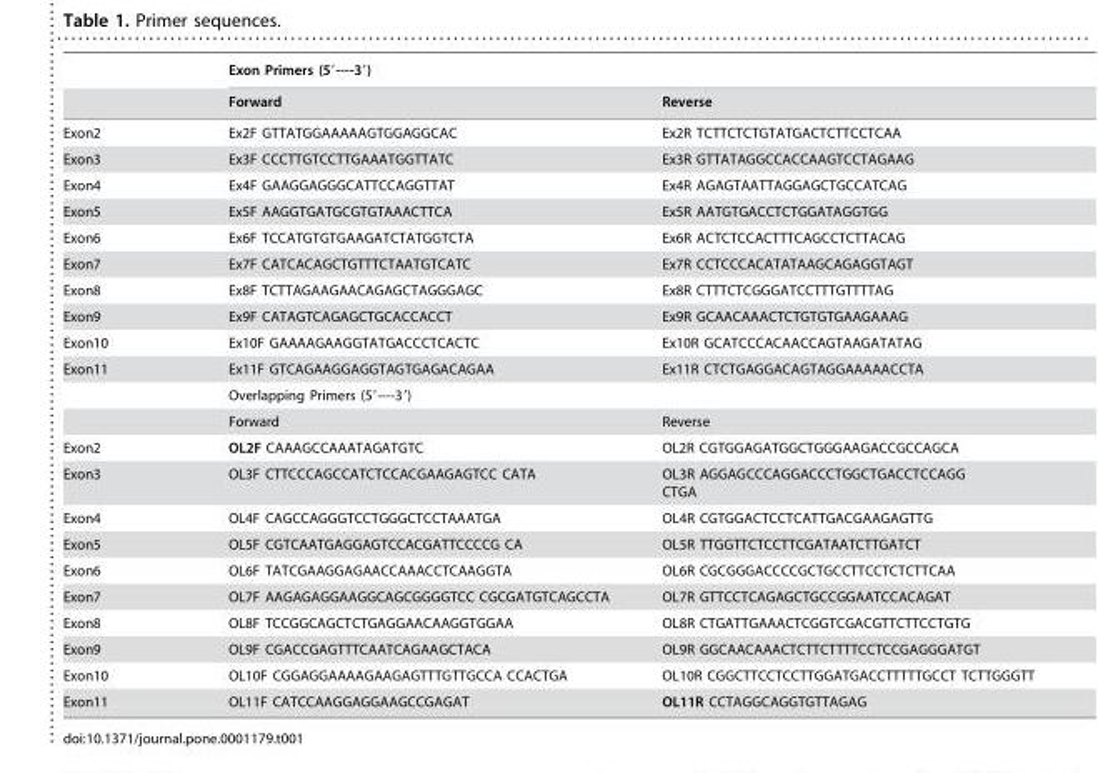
<table><thead><tr><td rowspan="2"></td><td colspan="2">Exon Primers (5′----3′)</td></tr><tr><td>Forward</td><td>Reverse</td></tr></thead><tbody><tr><td>Exon2</td><td>Ex2F GTTATGGAAAAAGTGGAGGCAC</td><td>Ex2R TCTTCTCTGTATGACTCTTCCTCAA</td></tr><tr><td>Exon3</td><td>Ex3F CCCTTGTCCTTGAAATGGTTATC</td><td>Ex3R GTTATAGGCCACCAAGTCCTAGAAG</td></tr><tr><td>Exon4</td><td>Ex4F GAAGGAGGGCATTCCAGGTTAT</td><td>Ex4R AGAGTAATTAGGAGCTGCCATCAG</td></tr><tr><td>Exon5</td><td>Ex5F AAGGTGATGCGTGTAAACTTCA</td><td>Ex5R AATGTGACCTCTGGATAGGTGG</td></tr><tr><td>Exon6</td><td>Ex6F TCCATGTGTGAAGATCTATGGTCTA</td><td>Ex6R ACTCTCCACTTTCAGCCTCTTACAG</td></tr><tr><td>Exon7</td><td>Ex7F CATCACAGCTGTTTCTAATGTCATC</td><td>Ex7R CCTCCCACATATAAGCAGAGGTAGT</td></tr><tr><td>Exon8</td><td>Ex8F TCTTAGAAGAACAGAGCTAGGGAGC</td><td>Ex8R CTTTCTCGGGATCCTTTGTTTTAG</td></tr><tr><td>Exon9</td><td>Ex9F CATAGTCAGAGCTGCACCACCT</td><td>Ex9R GCAACAAACTCTGTGTGAAGAAAG</td></tr><tr><td>Exon10</td><td>Ex10F GAAAAGAAGGTATGACCCTCACTC</td><td>Ex10R GCATCCCACAACCAGTAAGATATAG</td></tr><tr><td rowspan="3">Exon11</td><td>Ex11F GTCAGAAGGAGGTAGTGAGACAGAA</td><td>Ex11R CTCTGAGGACAGTAGGAAAAACCTA</td></tr><tr><td colspan="2">Overlapping Primers (5′----3′)</td></tr><tr><td>Forward</td><td>Reverse</td></tr><tr><td>Exon2</td><td>OL2F CAAAGCCAAATAGATGTC</td><td>OL2R CGTGGAGATGGCTGGGAAGACCGCCAGCA</td></tr><tr><td>Exon3</td><td>OL3F CTTCCCAGCCATCTCCACGAAGAGTCC CATA</td><td>OL3R AGGAGCCCAGGACCCTGGCTGACCTCCAGG CTGA</td></tr><tr><td>Exon4</td><td>OL4F CAGCCAGGGTCCTGGGCTCCTAAATGA</td><td>OL4R CGTGGACTCCTCATTGACGAAGAGTTG</td></tr><tr><td>Exon5</td><td>OL5F CGTCAATGAGGAGTCCACGATTCCCCG CA</td><td>OL5R TTGGTTCTCCTTCGATAATCTTGATCT</td></tr><tr><td>Exon6</td><td>OL6F TATCGAAGGAGAACCAAACCTCAAGGTA</td><td>OL6R CGCGGGACCCCGCTGCCTTCCTCTCTTCAA</td></tr><tr><td>Exon7</td><td>OL7F AAGAGAGGAAGGCAGCGGGGTCC CGCGATGTCAGCCTA</td><td>OL7R GTTCCTCAGAGCTGCCGGAATCCACAGAT</td></tr><tr><td>Exon8</td><td>OL8F TCCGGCAGCTCTGAGGAACAAGGTGGAA</td><td>OL8R CTGATTGAAACTCGGTCGACGTTCTTCCTGTG</td></tr><tr><td>Exon9</td><td>OL9F CGACCGAGTTTCAATCAGAAGCTACA</td><td>OL9R GGCAACAAACTCTTCTTTTCCTCCGAGGGATGT</td></tr><tr><td>Exon10</td><td>OL10F CGGAGGAAAAGAAGAGTTTGTTGCCA CCACTGA</td><td>OL10R CGGCTTCCTCCTTGGATGACCTTTTTGCCT TCTTGGGTT</td></tr><tr><td>Exon11</td><td>OL11F CATCCAAGGAGGAAGCCGAGAT</td><td>OL11R CCTAGGCAGGTGTTAGAG</td></tr></tbody></table>